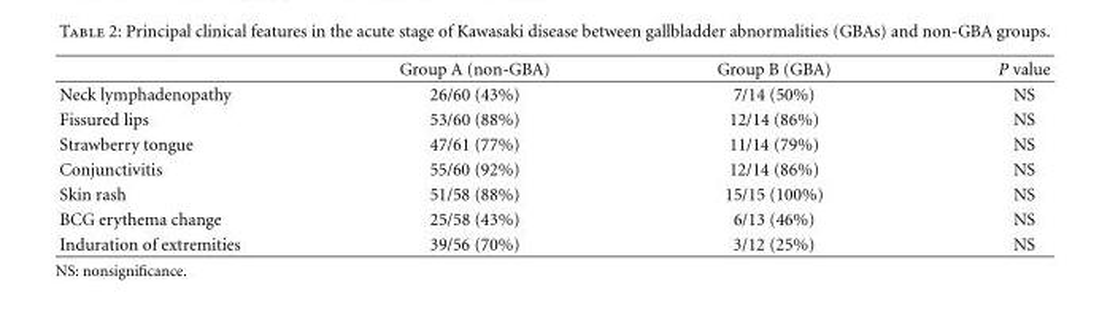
<table><thead><tr><td></td><td>Group A (non-GBA)</td><td>Group B (GBA)</td><td>P value</td></tr></thead><tbody><tr><td>Neck lymphadenopathy</td><td>26/60 (43%)</td><td>7/14 (50%)</td><td>NS</td></tr><tr><td>Fissured lips</td><td>53/60 (88%)</td><td>12/14 (86%)</td><td>NS</td></tr><tr><td>Strawberry tongue</td><td>47/61 (77%)</td><td>11/14 (79%)</td><td>NS</td></tr><tr><td>Conjunctivitis</td><td>55/60 (92%)</td><td>12/14 (86%)</td><td>NS</td></tr><tr><td>Skin rash</td><td>51/58 (88%)</td><td>15/15 (100%)</td><td>NS</td></tr><tr><td>BCG erythema change</td><td>25/58 (43%)</td><td>6/13 (46%)</td><td>NS</td></tr><tr><td>Induration of extremities</td><td>39/56 (70%)</td><td>3/12 (25%)</td><td>NS</td></tr></tbody></table>